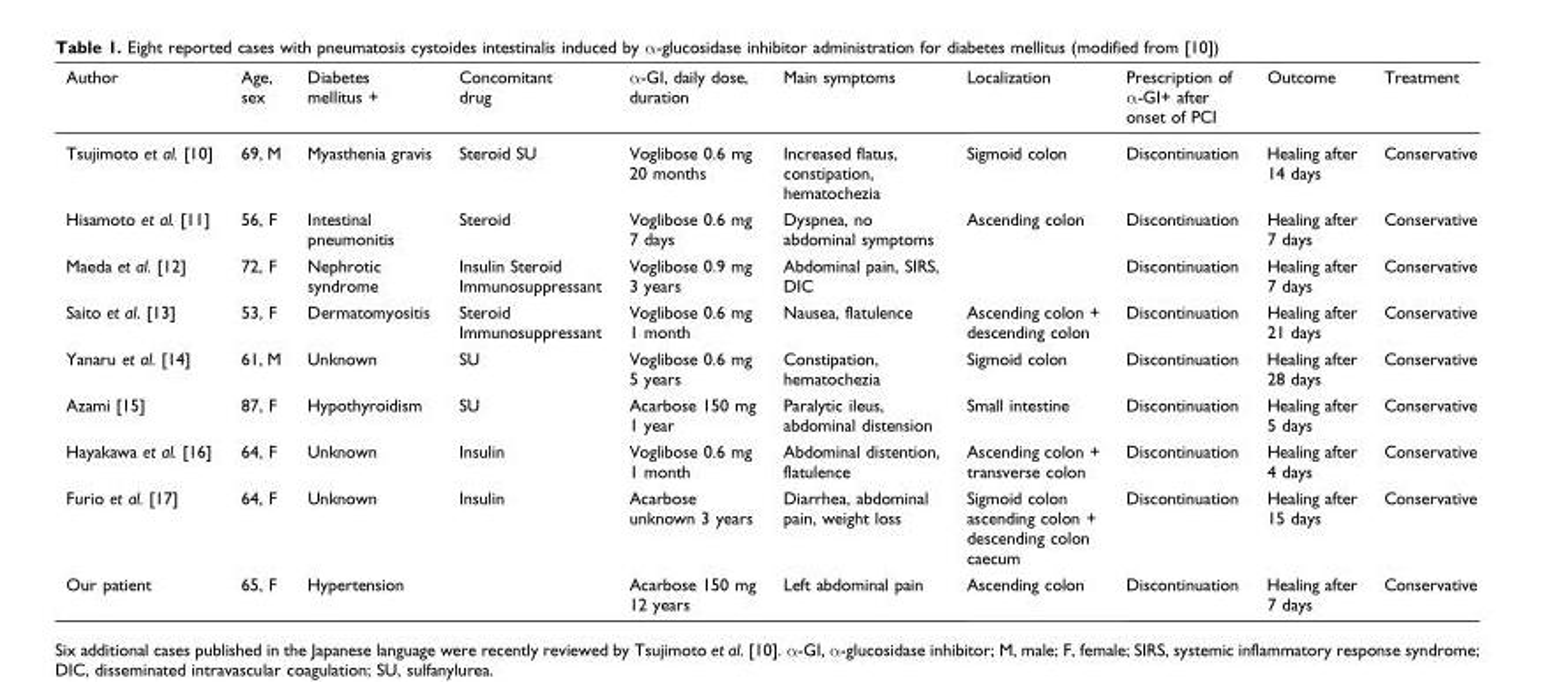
<table><thead><tr><td>Author</td><td>Age, sex</td><td>Diabetes mellitus +</td><td>Concomitant drug</td><td>α-GI, daily dose, duration</td><td>Main symptoms</td><td>Localization</td><td>Prescription of α-GI+ after onset of PCI</td><td>Outcome</td><td>Treatment</td></tr></thead><tbody><tr><td>Tsujimoto et al. [10]</td><td>69, M</td><td>Myasthenia gravis</td><td>Steroid SU</td><td>Voglibose 0.6 mg 20 months</td><td>Increased flatus, constipation, hematochezia</td><td>Sigmoid colon</td><td>Discontinuation</td><td>Healing after 14 days</td><td>Conservative</td></tr><tr><td>Hisamoto et al. [11]</td><td>56, F</td><td>Intestinal pneumonitis</td><td>Steroid</td><td>Voglibose 0.6 mg 7 days</td><td>Dyspnea, no abdominal symptoms</td><td>Ascending colon</td><td>Discontinuation</td><td>Healing after 7 days</td><td>Conservative</td></tr><tr><td>Maeda et al. [12]</td><td>72, F</td><td>Nephrotic syndrome</td><td>Insulin Steroid Immunosuppressant</td><td>Voglibose 0.9 mg 3 years</td><td>Abdominal pain, SIRS, DIC</td><td></td><td>Discontinuation</td><td>Healing after 7 days</td><td>Conservative</td></tr><tr><td>Saito et al. [13]</td><td>53, F</td><td>Dermatomyositis</td><td>Steroid Immunosuppressant</td><td>Voglibose 0.6 mg 1 month</td><td>Nausea, flatulence</td><td>Ascending colon + descending colon</td><td>Discontinuation</td><td>Healing after 21 days</td><td>Conservative</td></tr><tr><td>Yanaru et al. [14]</td><td>61, M</td><td>Unknown</td><td>SU</td><td>Voglibose 0.6 mg 5 years</td><td>Constipation, hematochezia</td><td>Sigmoid colon</td><td>Discontinuation</td><td>Healing after 28 days</td><td>Conservative</td></tr><tr><td>Azami [15]</td><td>87, F</td><td>Hypothyroidism</td><td>SU</td><td>Acarbose 150 mg 1 year</td><td>Paralytic ileus, abdominal distension</td><td>Small intestine</td><td>Discontinuation</td><td>Healing after 5 days</td><td>Conservative</td></tr><tr><td>Hayakawa et al. [16]</td><td>64, F</td><td>Unknown</td><td>Insulin</td><td>Voglibose 0.6 mg 1 month</td><td>Abdominal distention, flatulence</td><td>Ascending colon + transverse colon</td><td>Discontinuation</td><td>Healing after 4 days</td><td>Conservative</td></tr><tr><td>Furio et al. [17]</td><td>64, F</td><td>Unknown</td><td>Insulin</td><td>Acarbose unknown 3 years</td><td>Diarrhea, abdominal pain, weight loss</td><td>Sigmoid colon ascending colon + descending colon caecum</td><td>Discontinuation</td><td>Healing after 15 days</td><td>Conservative</td></tr><tr><td>Our patient</td><td>65, F</td><td>Hypertension</td><td></td><td>Acarbose 150 mg 12 years</td><td>Left abdominal pain</td><td>Ascending colon</td><td>Discontinuation</td><td>Healing after 7 days</td><td>Conservative</td></tr></tbody></table>